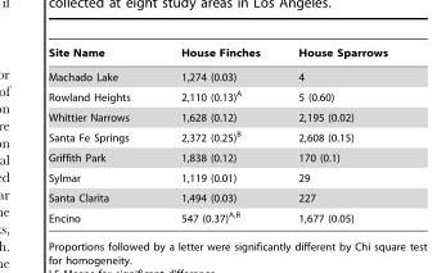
<table><thead><tr><td>Site Name</td><td>House Finches</td><td>House Sparrows</td></tr></thead><tbody><tr><td>Machado Lake</td><td>1,274 (0.03)</td><td>4</td></tr><tr><td>Rowland Heights</td><td>2,110 (0.13)<sup>A</sup></td><td>5 (0.60)</td></tr><tr><td>Whittier Narrows</td><td>1,628 (0.12)</td><td>2,195 (0.02)</td></tr><tr><td>Santa Fe Springs</td><td>2,372 (0.25)<sup>B</sup></td><td>2,608 (0.15)</td></tr><tr><td>Griffith Park</td><td>1,838 (0.12)</td><td>170 (0.1)</td></tr><tr><td>Sylmar</td><td>1,119 (0.01)</td><td>29</td></tr><tr><td>Santa Clarita</td><td>1,494 (0.03)</td><td>227</td></tr><tr><td>Encino</td><td>547 (0.37)<sup>A,</sup>B</td><td>1,677 (0.05)</td></tr></tbody></table>